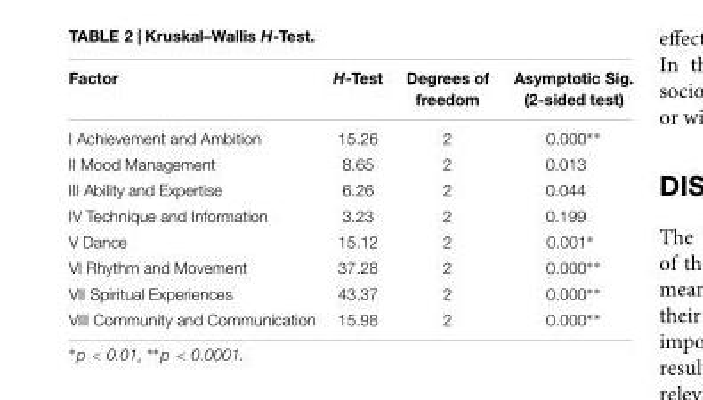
<table><thead><tr><td>Factor</td><td>H-Test</td><td>Degrees of freedom</td><td>Asymptotic Sig. (2-sided test)</td></tr></thead><tbody><tr><td>I Achievement and Ambition</td><td>15.26</td><td>2</td><td>0.000∗∗</td></tr><tr><td>II Mood Management</td><td>8.65</td><td>2</td><td>0.013</td></tr><tr><td>III Ability and Expertise</td><td>6.26</td><td>2</td><td>0.044</td></tr><tr><td>IV Technique and Information</td><td>3.23</td><td>2</td><td>0.199</td></tr><tr><td>V Dance</td><td>15.12</td><td>2</td><td>0.001∗</td></tr><tr><td>VI Rhythm and Movement</td><td>37.28</td><td>2</td><td>0.000∗∗</td></tr><tr><td>VII Spiritual Experiences</td><td>43.37</td><td>2</td><td>0.000∗∗</td></tr><tr><td>VIII Community and Communication</td><td>15.98</td><td>2</td><td>0.000∗∗</td></tr></tbody></table>